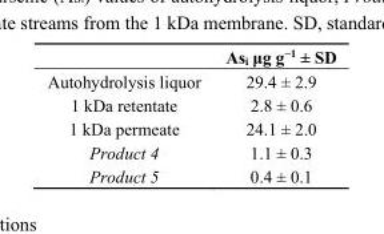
<table><thead><tr><td></td><td>As<sub>i</sub> μg g<sup>−1</sup> ± SD</td></tr></thead><tbody><tr><td>Autohydrolysis liquor</td><td>29.4 ± 2.9</td></tr><tr><td>1 kDa retentate</td><td>2.8 ± 0.6</td></tr><tr><td>1 kDa permeate</td><td>24.1 ± 2.0</td></tr><tr><td>Product 4</td><td>1.1 ± 0.3</td></tr><tr><td>Product 5</td><td>0.4 ± 0.1</td></tr></tbody></table>